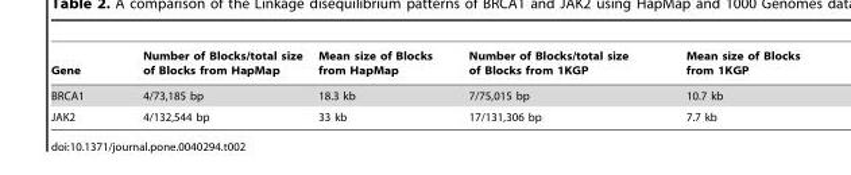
<table><thead><tr><td>Gene</td><td>Number of Blocks/total size of Blocks from HapMap</td><td>Mean size of Blocks from HapMap</td><td>Number of Blocks/total size of Blocks from 1KGP</td><td>Mean size of Blocks from 1KGP</td></tr></thead><tbody><tr><td>BRCA1</td><td>4/73,185 bp</td><td>18.3 kb</td><td>7/75,015 bp</td><td>10.7 kb</td></tr><tr><td>JAK2</td><td>4/132,544 bp</td><td>33 kb</td><td>17/131,306 bp</td><td>7.7 kb</td></tr></tbody></table>